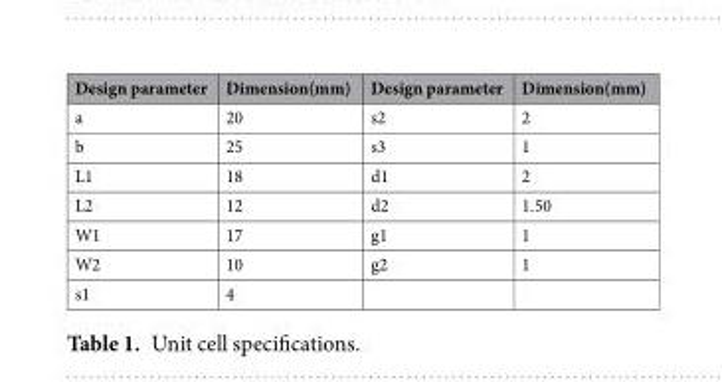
<table><thead><tr><td>Design parameter</td><td>Dimension(mm)</td><td>Design parameter</td><td>Dimension(mm)</td></tr></thead><tbody><tr><td>a</td><td>20</td><td>s2</td><td>2</td></tr><tr><td>b</td><td>25</td><td>s3</td><td>1</td></tr><tr><td>L1</td><td>18</td><td>d1</td><td>2</td></tr><tr><td>L2</td><td>12</td><td>d2</td><td>1.50</td></tr><tr><td>W1</td><td>17</td><td>g1</td><td>1</td></tr><tr><td>W2</td><td>10</td><td>g2</td><td>1</td></tr><tr><td>s1</td><td>4</td><td></td><td></td></tr></tbody></table>